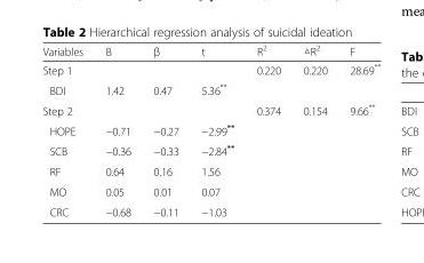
<table><thead><tr><td>Variables</td><td>B</td><td>β</td><td>t</td><td>R<sup>2</sup></td><td>△R<sup>2</sup></td><td>F</td></tr></thead><tbody><tr><td>Step 1</td><td></td><td></td><td></td><td>0.220</td><td>0.220</td><td>28.69**</td></tr><tr><td>BDI</td><td>1.42</td><td>0.47</td><td>5.36**</td><td></td><td></td><td></td></tr><tr><td>Step 2</td><td></td><td></td><td></td><td>0.374</td><td>0.154</td><td>9.66**</td></tr><tr><td>HOPE</td><td>−0.71</td><td>−0.27</td><td>−2.99**</td><td></td><td></td><td></td></tr><tr><td>SCB</td><td>−0.36</td><td>−0.33</td><td>−2.84**</td><td></td><td></td><td></td></tr><tr><td>RF</td><td>0.64</td><td>0.16</td><td>1.56</td><td></td><td></td><td></td></tr><tr><td>MO</td><td>0.05</td><td>0.01</td><td>0.07</td><td></td><td></td><td></td></tr><tr><td>CRC</td><td>−0.68</td><td>−0.11</td><td>−1.03</td><td></td><td></td><td></td></tr></tbody></table>